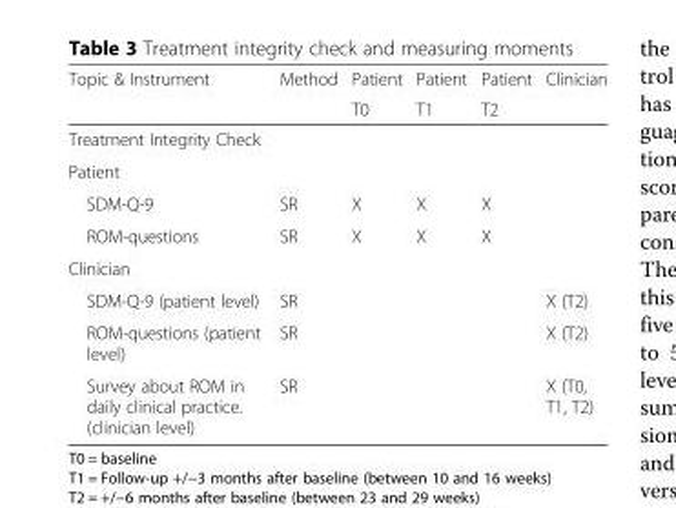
<table><thead><tr><td rowspan="2">Topic &amp; Instrument</td><td rowspan="2">Method</td><td rowspan="2">Patient T0</td><td rowspan="2">Patient T1</td><td rowspan="2">Patient T2</td><td rowspan="2">Clinician</td></tr><tr></tr></thead><tbody><tr><td colspan="6">Treatment Integrity Check</td></tr><tr><td colspan="6">Patient</td></tr><tr><td>SDM-Q-9</td><td>SR</td><td>X</td><td>X</td><td>X</td><td></td></tr><tr><td>ROM-questions</td><td>SR</td><td>X</td><td>X</td><td>X</td><td></td></tr><tr><td colspan="6">Clinician</td></tr><tr><td>SDM-Q-9 (patient level)</td><td>SR</td><td></td><td></td><td></td><td>X (T2)</td></tr><tr><td>ROM-questions (patient level)</td><td>SR</td><td></td><td></td><td></td><td>X (T2)</td></tr><tr><td>Survey about ROM in daily clinical practice. (clinician level)</td><td>SR</td><td></td><td></td><td></td><td>X (T0, T1, T2)</td></tr></tbody></table>